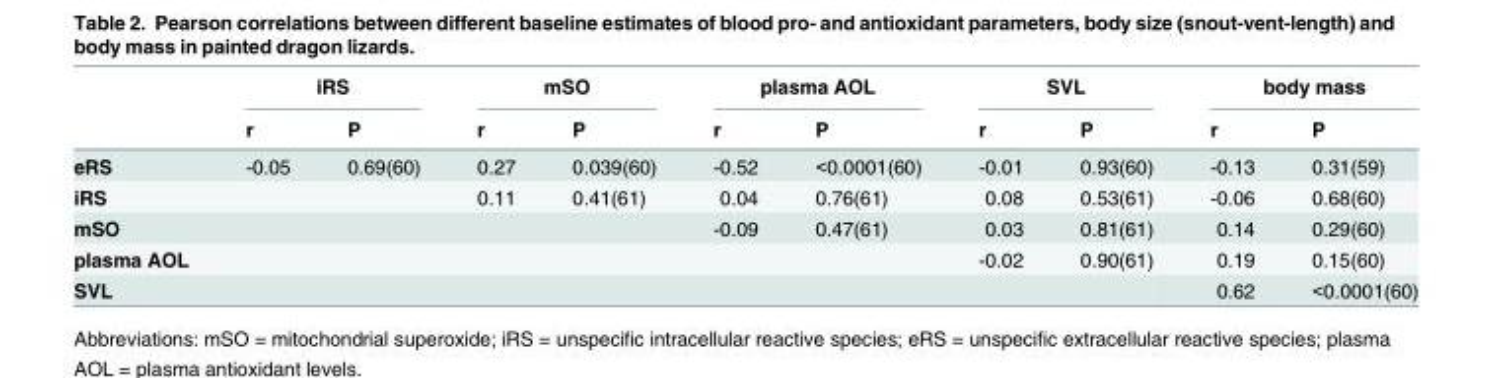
<table><thead><tr><td rowspan="2"></td><td colspan="2">iRS</td><td colspan="2">mSO</td><td colspan="2">plasma AOL</td><td colspan="2">SVL</td><td colspan="2">body mass</td></tr><tr><td>r</td><td>P</td><td>r</td><td>P</td><td>r</td><td>P</td><td>r</td><td>P</td><td>r</td><td>P</td></tr></thead><tbody><tr><td>eRS</td><td>-0.05</td><td>0.69(60)</td><td>0.27</td><td>0.039(60)</td><td>-0.52</td><td>&lt;0.0001(60)</td><td>-0.01</td><td>0.93(60)</td><td>-0.13</td><td>0.31(59)</td></tr><tr><td>iRS</td><td></td><td></td><td>0.11</td><td>0.41(61)</td><td>0.04</td><td>0.76(61)</td><td>0.08</td><td>0.53(61)</td><td>-0.06</td><td>0.68(60)</td></tr><tr><td>mSO</td><td></td><td></td><td></td><td></td><td>-0.09</td><td>0.47(61)</td><td>0.03</td><td>0.81(61)</td><td>0.14</td><td>0.29(60)</td></tr><tr><td>plasma AOL</td><td></td><td></td><td></td><td></td><td></td><td></td><td>-0.02</td><td>0.90(61)</td><td>0.19</td><td>0.15(60)</td></tr><tr><td>SVL</td><td></td><td></td><td></td><td></td><td></td><td></td><td></td><td></td><td>0.62</td><td>&lt;0.0001(60)</td></tr></tbody></table>